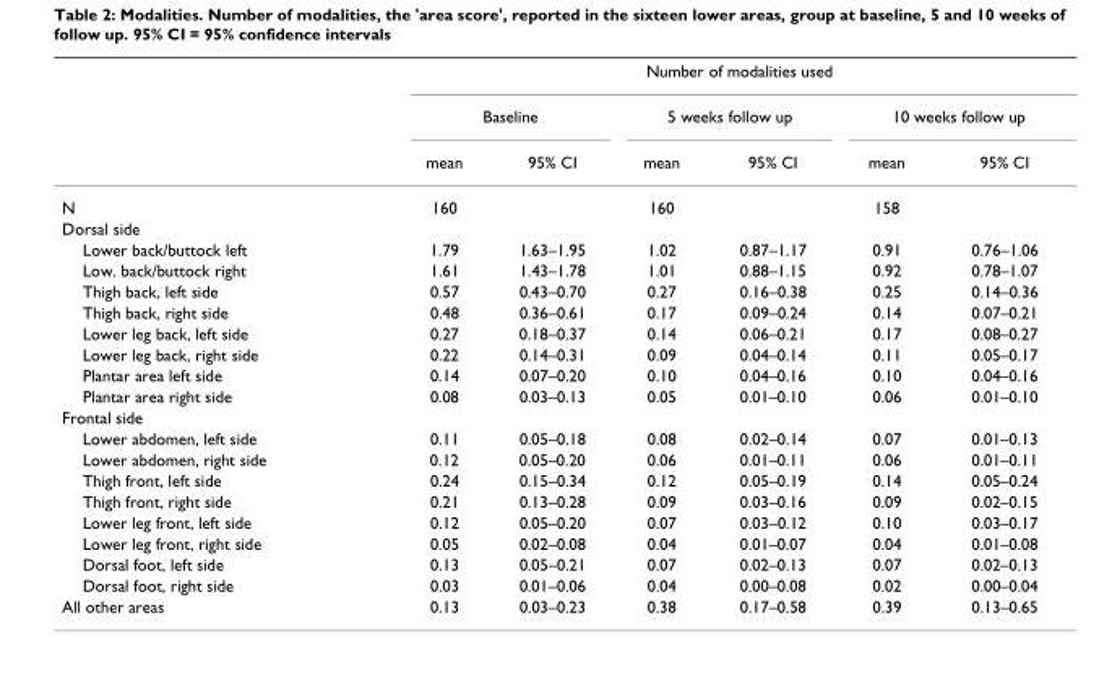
<table><thead><tr><td rowspan="3"></td><td colspan="6">Number of modalities used</td></tr><tr><td colspan="2">Baseline</td><td colspan="2">5 weeks follow up</td><td colspan="2">10 weeks follow up</td></tr><tr><td>mean</td><td>95% CI</td><td>mean</td><td>95% CI</td><td>mean</td><td>95% CI</td></tr></thead><tbody><tr><td>N</td><td>160</td><td></td><td>160</td><td></td><td>158</td><td></td></tr><tr><td colspan="7">Dorsal side</td></tr><tr><td>Lower back/buttock left</td><td>1.79</td><td>1.63–1.95</td><td>1.02</td><td>0.87–1.17</td><td>0.91</td><td>0.76–1.06</td></tr><tr><td>Low. back/buttock right</td><td>1.61</td><td>1.43–1.78</td><td>1.01</td><td>0.88–1.15</td><td>0.92</td><td>0.78–1.07</td></tr><tr><td>Thigh back, left side</td><td>0.57</td><td>0.43–0.70</td><td>0.27</td><td>0.16–0.38</td><td>0.25</td><td>0.14–0.36</td></tr><tr><td>Thigh back, right side</td><td>0.48</td><td>0.36–0.61</td><td>0.17</td><td>0.09–0.24</td><td>0.14</td><td>0.07–0.21</td></tr><tr><td>Lower leg back, left side</td><td>0.27</td><td>0.18–0.37</td><td>0.14</td><td>0.06–0.21</td><td>0.17</td><td>0.08–0.27</td></tr><tr><td>Lower leg back, right side</td><td>0.22</td><td>0.14–0.31</td><td>0.09</td><td>0.04–0.14</td><td>0.11</td><td>0.05–0.17</td></tr><tr><td>Plantar area left side</td><td>0.14</td><td>0.07–0.20</td><td>0.10</td><td>0.04–0.16</td><td>0.10</td><td>0.04–0.16</td></tr><tr><td>Plantar area right side</td><td>0.08</td><td>0.03–0.13</td><td>0.05</td><td>0.01–0.10</td><td>0.06</td><td>0.01–0.10</td></tr><tr><td colspan="7">Frontal side</td></tr><tr><td>Lower abdomen, left side</td><td>0.11</td><td>0.05–0.18</td><td>0.08</td><td>0.02–0.14</td><td>0.07</td><td>0.01–0.13</td></tr><tr><td>Lower abdomen, right side</td><td>0.12</td><td>0.05–0.20</td><td>0.06</td><td>0.01–0.11</td><td>0.06</td><td>0.01–0.11</td></tr><tr><td>Thigh front, left side</td><td>0.24</td><td>0.15–0.34</td><td>0.12</td><td>0.05–0.19</td><td>0.14</td><td>0.05–0.24</td></tr><tr><td>Thigh front, right side</td><td>0.21</td><td>0.13–0.28</td><td>0.09</td><td>0.03–0.16</td><td>0.09</td><td>0.02–0.15</td></tr><tr><td>Lower leg front, left side</td><td>0.12</td><td>0.05–0.20</td><td>0.07</td><td>0.03–0.12</td><td>0.10</td><td>0.03–0.17</td></tr><tr><td>Lower leg front, right side</td><td>0.05</td><td>0.02–0.08</td><td>0.04</td><td>0.01–0.07</td><td>0.04</td><td>0.01–0.08</td></tr><tr><td>Dorsal foot, left side</td><td>0.13</td><td>0.05–0.21</td><td>0.07</td><td>0.02–0.13</td><td>0.07</td><td>0.02–0.13</td></tr><tr><td>Dorsal foot, right side</td><td>0.03</td><td>0.01–0.06</td><td>0.04</td><td>0.00–0.08</td><td>0.02</td><td>0.00–0.04</td></tr><tr><td>All other areas</td><td>0.13</td><td>0.03–0.23</td><td>0.38</td><td>0.17–0.58</td><td>0.39</td><td>0.13–0.65</td></tr></tbody></table>